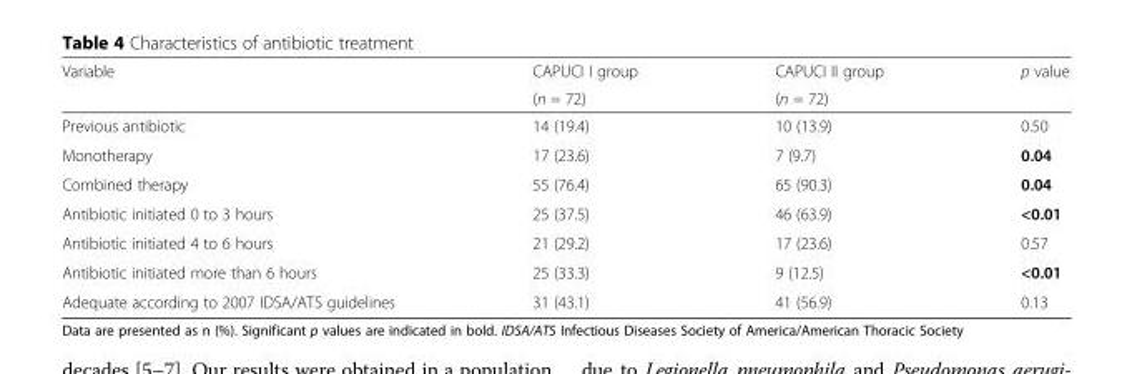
<table><thead><tr><td rowspan="2">Variable</td><td rowspan="2">CAPUCI I group (n = 72)</td><td rowspan="2">CAPUCI II group (n = 72)</td><td rowspan="2">p value</td></tr><tr></tr></thead><tbody><tr><td>Previous antibiotic</td><td>14 (19.4)</td><td>10 (13.9)</td><td>0.50</td></tr><tr><td>Monotherapy</td><td>17 (23.6)</td><td>7 (9.7)</td><td>0.04</td></tr><tr><td>Combined therapy</td><td>55 (76.4)</td><td>65 (90.3)</td><td>0.04</td></tr><tr><td>Antibiotic initiated 0 to 3 hours</td><td>25 (37.5)</td><td>46 (63.9)</td><td>&lt;0.01</td></tr><tr><td>Antibiotic initiated 4 to 6 hours</td><td>21 (29.2)</td><td>17 (23.6)</td><td>0.57</td></tr><tr><td>Antibiotic initiated more than 6 hours</td><td>25 (33.3)</td><td>9 (12.5)</td><td>&lt;0.01</td></tr><tr><td>Adequate according to 2007 IDSA/ATS guidelines</td><td>31 (43.1)</td><td>41 (56.9)</td><td>0.13</td></tr></tbody></table>